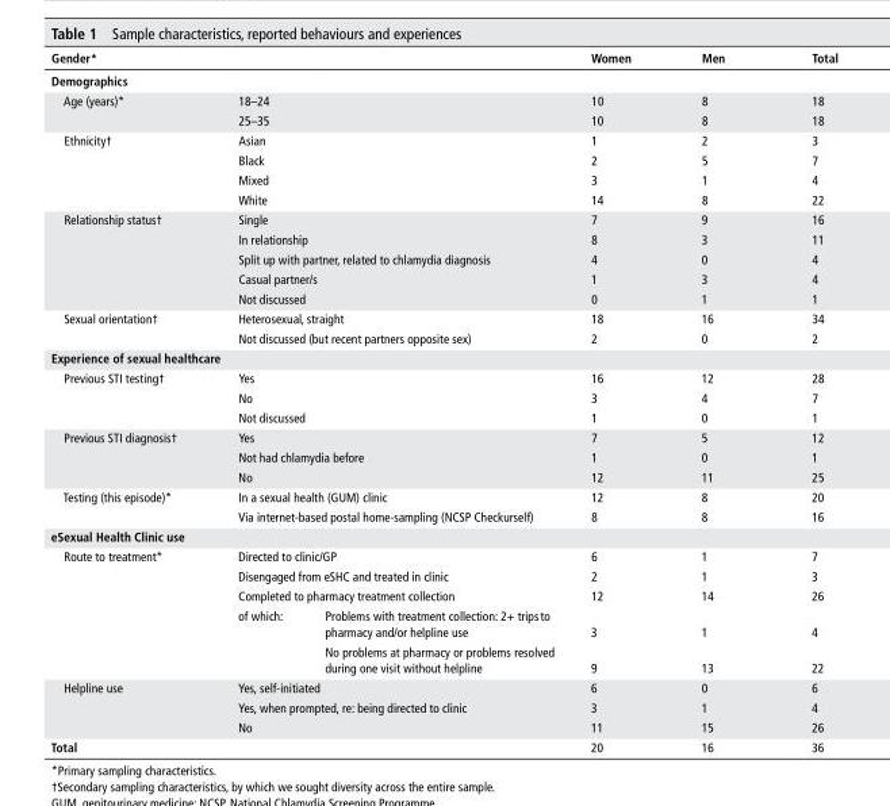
<table><thead><tr><td colspan="3">Gender*</td><td>Women</td><td>Men</td><td>Total</td></tr></thead><tbody><tr><td colspan="6">demographics</td></tr><tr><td rowspan="2">Age (years)*</td><td colspan="2">18–24</td><td>10</td><td>8</td><td>18</td></tr><tr><td colspan="2">25–35</td><td>10</td><td>8</td><td>18</td></tr><tr><td rowspan="4">Ethnicity†</td><td colspan="2">Asian</td><td>1</td><td>2</td><td>3</td></tr><tr><td colspan="2">Black</td><td>2</td><td>5</td><td>7</td></tr><tr><td colspan="2">Mixed</td><td>3</td><td>1</td><td>4</td></tr><tr><td colspan="2">White</td><td>14</td><td>8</td><td>22</td></tr><tr><td rowspan="5">Relationship status†</td><td colspan="2">Single</td><td>7</td><td>9</td><td>16</td></tr><tr><td colspan="2">In relationship</td><td>8</td><td>3</td><td>11</td></tr><tr><td colspan="2">Split up with partner, related to chlamydia diagnosis</td><td>4</td><td>0</td><td>4</td></tr><tr><td colspan="2">Casual partner/s</td><td>1</td><td>3</td><td>4</td></tr><tr><td colspan="2">Not discussed</td><td>0</td><td>1</td><td>1</td></tr><tr><td rowspan="2">Sexual orientation†</td><td colspan="2">Heterosexual, straight</td><td>18</td><td>16</td><td>34</td></tr><tr><td colspan="2">Not discussed (but recent partners opposite sex)</td><td>2</td><td>0</td><td>2</td></tr><tr><td colspan="6">experience of sexual healthcare</td></tr><tr><td rowspan="3">Previous STI testing†</td><td colspan="2">Yes</td><td>16</td><td>12</td><td>28</td></tr><tr><td colspan="2">No</td><td>3</td><td>4</td><td>7</td></tr><tr><td colspan="2">Not discussed</td><td>1</td><td>0</td><td>1</td></tr><tr><td rowspan="3">Previous STI diagnosis†</td><td colspan="2">Yes</td><td>7</td><td>5</td><td>12</td></tr><tr><td colspan="2">Not had chlamydia before</td><td>1</td><td>0</td><td>1</td></tr><tr><td colspan="2">No</td><td>12</td><td>11</td><td>25</td></tr><tr><td rowspan="2">Testing (this episode)*</td><td colspan="2">In a sexual health (GUM) clinic</td><td>12</td><td>8</td><td>20</td></tr><tr><td colspan="2">Via internet-based postal home-sampling (NCSP Checkurself)</td><td>8</td><td>8</td><td>16</td></tr><tr><td colspan="6">esexual Health Clinic use</td></tr><tr><td rowspan="5">Route to treatment*</td><td colspan="2">Directed to clinic/GP</td><td>6</td><td>1</td><td>7</td></tr><tr><td colspan="2">Disengaged from eSHC and treated in clinic</td><td>2</td><td>1</td><td>3</td></tr><tr><td colspan="2">Completed to pharmacy treatment collection</td><td>12</td><td>14</td><td>26</td></tr><tr><td rowspan="2">of which:</td><td>Problems with treatment collection: 2+ trips to pharmacy and/or helpline use</td><td>3</td><td>1</td><td>4</td></tr><tr><td>No problems at pharmacy or problems resolved during one visit without helpline</td><td>9</td><td>13</td><td>22</td></tr><tr><td rowspan="3">Helpline use</td><td colspan="2">Yes, self-initiated</td><td>6</td><td>0</td><td>6</td></tr><tr><td colspan="2">Yes, when prompted, re: being directed to clinic</td><td>3</td><td>1</td><td>4</td></tr><tr><td colspan="2">No</td><td>11</td><td>15</td><td>26</td></tr><tr><td colspan="3">Total</td><td>20</td><td>16</td><td>36</td></tr></tbody></table>